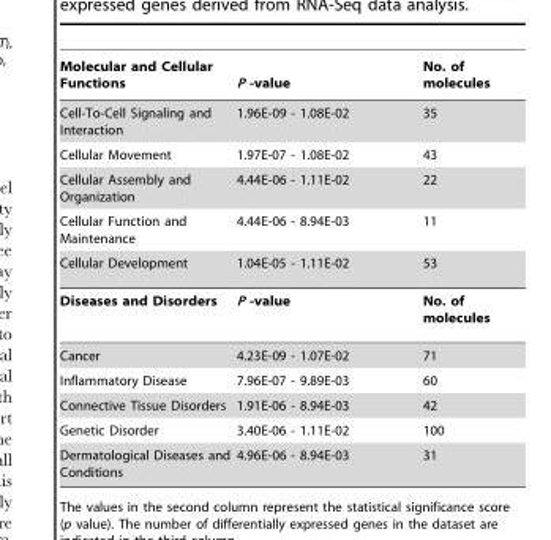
<table><thead><tr><td>Molecular and Cellular Functions</td><td>P -value</td><td>No. of molecules</td></tr></thead><tbody><tr><td>Cell-To-Cell Signaling and Interaction</td><td>1.96E-09 - 1.08E-02</td><td>35</td></tr><tr><td>Cellular Movement</td><td>1.97E-07 - 1.08E-02</td><td>43</td></tr><tr><td>Cellular Assembly and Organization</td><td>4.44E-06 - 1.11E-02</td><td>22</td></tr><tr><td>Cellular Function and Maintenance</td><td>4.44E-06 - 8.94E-03</td><td>11</td></tr><tr><td>Cellular Development</td><td>1.04E-05 - 1.11E-02</td><td>53</td></tr><tr><td>Diseases and Disorders</td><td>P -value</td><td>No. of molecules</td></tr><tr><td>Cancer</td><td>4.23E-09 - 1.07E-02</td><td>71</td></tr><tr><td>Inflammatory Disease</td><td>7.96E-07 - 9.89E-03</td><td>60</td></tr><tr><td>Connective Tissue Disorders</td><td>1.91E-06 - 8.94E-03</td><td>42</td></tr><tr><td>Genetic Disorder</td><td>3.40E-06 - 1.11E-02</td><td>100</td></tr><tr><td>Dermatological Diseases and Conditions</td><td>4.96E-06 - 8.94E-03</td><td>31</td></tr></tbody></table>